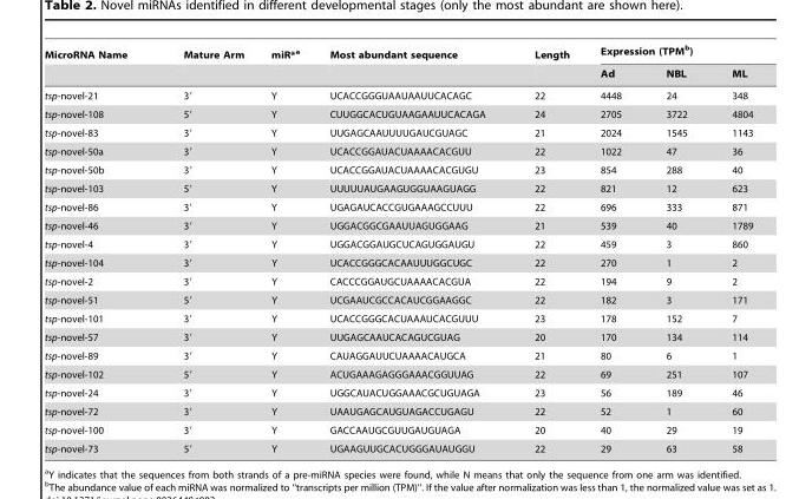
<table><thead><tr><td rowspan="2">MicroRNA Name</td><td rowspan="2">Mature Arm</td><td rowspan="2">miR*<sup>a</sup></td><td rowspan="2">Most abundant sequence</td><td rowspan="2">Length</td><td colspan="3">Expression (TPM<sup>b</sup>)</td></tr><tr><td>Ad</td><td>NBL</td><td>ML</td></tr></thead><tbody><tr><td>tsp-novel-21</td><td>3′</td><td>Y</td><td>UCACCGGGUAAUAAUUCACAGC</td><td>22</td><td>4448</td><td>24</td><td>348</td></tr><tr><td>tsp-novel-108</td><td>5′</td><td>Y</td><td>CUUGGCACUGUAAGAAUUCACAGA</td><td>24</td><td>2705</td><td>3722</td><td>4804</td></tr><tr><td>tsp-novel-83</td><td>3′</td><td>Y</td><td>UUGAGCAAUUUUGAUCGUAGC</td><td>21</td><td>2024</td><td>1545</td><td>1143</td></tr><tr><td>tsp-novel-50a</td><td>3′</td><td>Y</td><td>UCACCGGAUACUAAAACACGUU</td><td>22</td><td>1022</td><td>47</td><td>36</td></tr><tr><td>tsp-novel-50b</td><td>3′</td><td>Y</td><td>UCACCGGAUACUAAAACACGUGU</td><td>23</td><td>854</td><td>288</td><td>40</td></tr><tr><td>tsp-novel-103</td><td>5′</td><td>Y</td><td>UUUUUAUGAAGUGGUAAGUAGG</td><td>22</td><td>821</td><td>12</td><td>623</td></tr><tr><td>tsp-novel-86</td><td>3′</td><td>Y</td><td>UGAGAUCACCGUGAAAGCCUUU</td><td>22</td><td>696</td><td>333</td><td>871</td></tr><tr><td>tsp-novel-46</td><td>3′</td><td>Y</td><td>UGGACGGCGAAUUAGUGGAAG</td><td>21</td><td>539</td><td>40</td><td>1789</td></tr><tr><td>tsp-novel-4</td><td>3′</td><td>Y</td><td>UGGACGGAUGCUCAGUGGAUGU</td><td>22</td><td>459</td><td>3</td><td>860</td></tr><tr><td>tsp-novel-104</td><td>3′</td><td>Y</td><td>UCACCGGGCACAAUUUGGCUGC</td><td>22</td><td>270</td><td>1</td><td>2</td></tr><tr><td>tsp-novel-2</td><td>3′</td><td>Y</td><td>CACCCGGAUGCUAAAACACGUA</td><td>22</td><td>194</td><td>9</td><td>2</td></tr><tr><td>tsp-novel-51</td><td>5′</td><td>Y</td><td>UCGAAUCGCCACAUCGGAAGGC</td><td>22</td><td>182</td><td>3</td><td>171</td></tr><tr><td>tsp-novel-101</td><td>3′</td><td>Y</td><td>UCACCGGGCACUAAAUCACGUUU</td><td>23</td><td>178</td><td>152</td><td>7</td></tr><tr><td>tsp-novel-57</td><td>3′</td><td>Y</td><td>UUGAGCAAUCACAGUCGUAG</td><td>20</td><td>170</td><td>134</td><td>114</td></tr><tr><td>tsp-novel-89</td><td>3′</td><td>Y</td><td>CAUAGGAUUCUAAAACAUGCA</td><td>21</td><td>80</td><td>6</td><td>1</td></tr><tr><td>tsp-novel-102</td><td>5′</td><td>Y</td><td>ACUGAAAGAGGGAAACGGUUAG</td><td>22</td><td>69</td><td>251</td><td>107</td></tr><tr><td>tsp-novel-24</td><td>3′</td><td>Y</td><td>UGGCAUACUGGAAACGCUGUAGA</td><td>23</td><td>56</td><td>189</td><td>46</td></tr><tr><td>tsp-novel-72</td><td>3′</td><td>Y</td><td>UAAUGAGCAUGUAGACCUGAGU</td><td>22</td><td>52</td><td>1</td><td>60</td></tr><tr><td>tsp-novel-100</td><td>3′</td><td>Y</td><td>GACCAAUGCGUUGAUGUAGA</td><td>20</td><td>40</td><td>29</td><td>19</td></tr><tr><td>tsp-novel-73</td><td>5′</td><td>Y</td><td>UGAAGUUGCACUGGGAUAUGGU</td><td>22</td><td>29</td><td>63</td><td>58</td></tr></tbody></table>